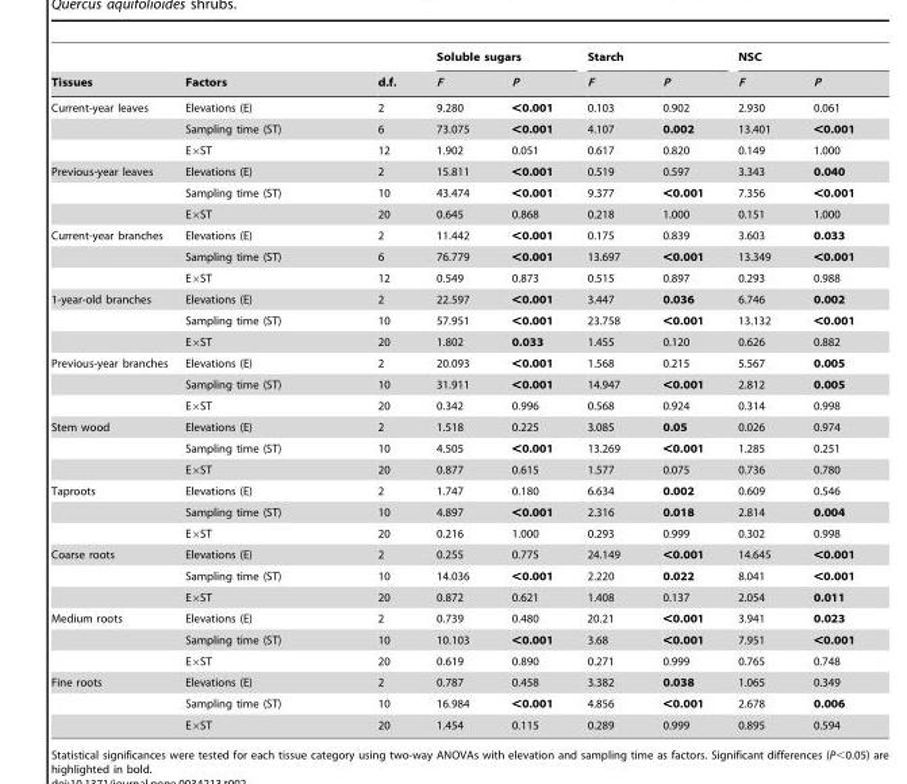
<table><thead><tr><td rowspan="2">Tissues</td><td rowspan="2">Factors</td><td rowspan="2">d.f.</td><td colspan="2">Soluble sugars</td><td colspan="2">Starch</td><td colspan="2">NSC</td></tr><tr><td>F</td><td>P</td><td>F</td><td>P</td><td>F</td><td>P</td></tr></thead><tbody><tr><td rowspan="3">Current-year leaves</td><td>Elevations (E)</td><td>2</td><td>9.280</td><td>&lt;0.001</td><td>0.103</td><td>0.902</td><td>2.930</td><td>0.061</td></tr><tr><td>Sampling time (ST)</td><td>6</td><td>73.075</td><td>&lt;0.001</td><td>4.107</td><td>0.002</td><td>13.401</td><td>&lt;0.001</td></tr><tr><td>E×ST</td><td>12</td><td>1.902</td><td>0.051</td><td>0.617</td><td>0.820</td><td>0.149</td><td>1.000</td></tr><tr><td rowspan="3">Previous-year leaves</td><td>Elevations (E)</td><td>2</td><td>15.811</td><td>&lt;0.001</td><td>0.519</td><td>0.597</td><td>3.343</td><td>0.040</td></tr><tr><td>Sampling time (ST)</td><td>10</td><td>43.474</td><td>&lt;0.001</td><td>9.377</td><td>&lt;0.001</td><td>7.356</td><td>&lt;0.001</td></tr><tr><td>E×ST</td><td>20</td><td>0.645</td><td>0.868</td><td>0.218</td><td>1.000</td><td>0.151</td><td>1.000</td></tr><tr><td rowspan="3">Current-year branches</td><td>Elevations (E)</td><td>2</td><td>11.442</td><td>&lt;0.001</td><td>0.175</td><td>0.839</td><td>3.603</td><td>0.033</td></tr><tr><td>Sampling time (ST)</td><td>6</td><td>76.779</td><td>&lt;0.001</td><td>13.697</td><td>&lt;0.001</td><td>13.349</td><td>&lt;0.001</td></tr><tr><td>E×ST</td><td>12</td><td>0.549</td><td>0.873</td><td>0.515</td><td>0.897</td><td>0.293</td><td>0.988</td></tr><tr><td rowspan="3">1-year-old branches</td><td>Elevations (E)</td><td>2</td><td>22.597</td><td>&lt;0.001</td><td>3.447</td><td>0.036</td><td>6.746</td><td>0.002</td></tr><tr><td>Sampling time (ST)</td><td>10</td><td>57.951</td><td>&lt;0.001</td><td>23.758</td><td>&lt;0.001</td><td>13.132</td><td>&lt;0.001</td></tr><tr><td>E×ST</td><td>20</td><td>1.802</td><td>0.033</td><td>1.455</td><td>0.120</td><td>0.626</td><td>0.882</td></tr><tr><td rowspan="3">Previous-year branches</td><td>Elevations (E)</td><td>2</td><td>20.093</td><td>&lt;0.001</td><td>1.568</td><td>0.215</td><td>5.567</td><td>0.005</td></tr><tr><td>Sampling time (ST)</td><td>10</td><td>31.911</td><td>&lt;0.001</td><td>14.947</td><td>&lt;0.001</td><td>2.812</td><td>0.005</td></tr><tr><td>E×ST</td><td>20</td><td>0.342</td><td>0.996</td><td>0.568</td><td>0.924</td><td>0.314</td><td>0.998</td></tr><tr><td rowspan="3">Stem wood</td><td>Elevations (E)</td><td>2</td><td>1.518</td><td>0.225</td><td>3.085</td><td>0.05</td><td>0.026</td><td>0.974</td></tr><tr><td>Sampling time (ST)</td><td>10</td><td>4.505</td><td>&lt;0.001</td><td>13.269</td><td>&lt;0.001</td><td>1.285</td><td>0.251</td></tr><tr><td>E×ST</td><td>20</td><td>0.877</td><td>0.615</td><td>1.577</td><td>0.075</td><td>0.736</td><td>0.780</td></tr><tr><td rowspan="3">Taproots</td><td>Elevations (E)</td><td>2</td><td>1.747</td><td>0.180</td><td>6.634</td><td>0.002</td><td>0.609</td><td>0.546</td></tr><tr><td>Sampling time (ST)</td><td>10</td><td>4.897</td><td>&lt;0.001</td><td>2.316</td><td>0.018</td><td>2.814</td><td>0.004</td></tr><tr><td>E×ST</td><td>20</td><td>0.216</td><td>1.000</td><td>0.293</td><td>0.999</td><td>0.302</td><td>0.998</td></tr><tr><td rowspan="3">Coarse roots</td><td>Elevations (E)</td><td>2</td><td>0.255</td><td>0.775</td><td>24.149</td><td>&lt;0.001</td><td>14.645</td><td>&lt;0.001</td></tr><tr><td>Sampling time (ST)</td><td>10</td><td>14.036</td><td>&lt;0.001</td><td>2.220</td><td>0.022</td><td>8.041</td><td>&lt;0.001</td></tr><tr><td>E×ST</td><td>20</td><td>0.872</td><td>0.621</td><td>1.408</td><td>0.137</td><td>2.054</td><td>0.011</td></tr><tr><td rowspan="3">Medium roots</td><td>Elevations (E)</td><td>2</td><td>0.739</td><td>0.480</td><td>20.21</td><td>&lt;0.001</td><td>3.941</td><td>0.023</td></tr><tr><td>Sampling time (ST)</td><td>10</td><td>10.103</td><td>&lt;0.001</td><td>3.68</td><td>&lt;0.001</td><td>7.951</td><td>&lt;0.001</td></tr><tr><td>E×ST</td><td>20</td><td>0.619</td><td>0.890</td><td>0.271</td><td>0.999</td><td>0.765</td><td>0.748</td></tr><tr><td rowspan="3">Fine roots</td><td>Elevations (E)</td><td>2</td><td>0.787</td><td>0.458</td><td>3.382</td><td>0.038</td><td>1.065</td><td>0.349</td></tr><tr><td>Sampling time (ST)</td><td>10</td><td>16.984</td><td>&lt;0.001</td><td>4.856</td><td>&lt;0.001</td><td>2.678</td><td>0.006</td></tr><tr><td>E×ST</td><td>20</td><td>1.454</td><td>0.115</td><td>0.289</td><td>0.999</td><td>0.895</td><td>0.594</td></tr></tbody></table>